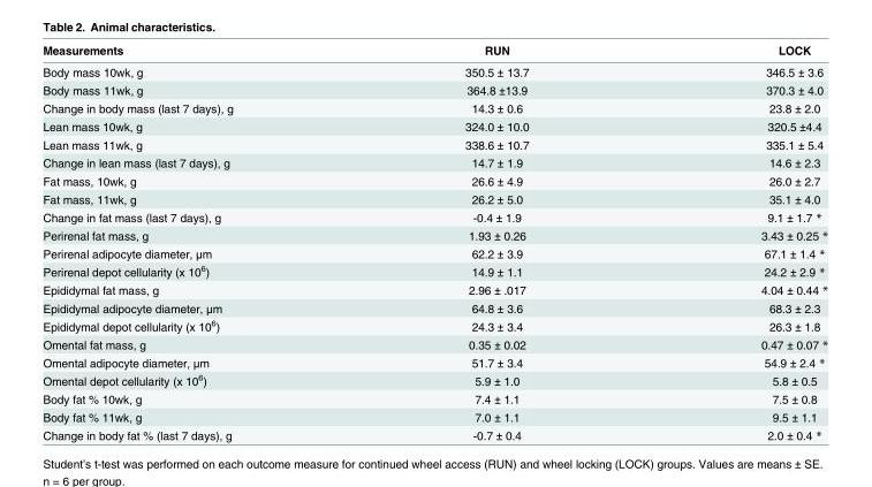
<table><thead><tr><td>Measurements</td><td>RUN</td><td>LOCK</td></tr></thead><tbody><tr><td>Body mass 10wk, g</td><td>350.5 ± 13.7</td><td>346.5 ± 3.6</td></tr><tr><td>Body mass 11wk, g</td><td>364.8 ±13.9</td><td>370.3 ± 4.0</td></tr><tr><td>Change in body mass (last 7 days), g</td><td>14.3 ± 0.6</td><td>23.8 ± 2.0</td></tr><tr><td>Lean mass 10wk, g</td><td>324.0 ± 10.0</td><td>320.5 ±4.4</td></tr><tr><td>Lean mass 11wk, g</td><td>338.6 ± 10.7</td><td>335.1 ± 5.4</td></tr><tr><td>Change in lean mass (last 7 days), g</td><td>14.7 ± 1.9</td><td>14.6 ± 2.3</td></tr><tr><td>Fat mass, 10wk, g</td><td>26.6 ± 4.9</td><td>26.0 ± 2.7</td></tr><tr><td>Fat mass, 11wk, g</td><td>26.2 ± 5.0</td><td>35.1 ± 4.0</td></tr><tr><td>Change in fat mass (last 7 days), g</td><td>-0.4 ± 1.9</td><td>9.1 ± 1.7 *</td></tr><tr><td>Perirenal fat mass, g</td><td>1.93 ± 0.26</td><td>3.43 ± 0.25 *</td></tr><tr><td>Perirenal adipocyte diameter, μm</td><td>62.2 ± 3.9</td><td>67.1 ± 1.4 *</td></tr><tr><td>Perirenal depot cellularity (x 10<sup>6</sup>)</td><td>14.9 ± 1.1</td><td>24.2 ± 2.9 *</td></tr><tr><td>Epididymal fat mass, g</td><td>2.96 ± .017</td><td>4.04 ± 0.44 *</td></tr><tr><td>Epididymal adipocyte diameter, μm</td><td>64.8 ± 3.6</td><td>68.3 ± 2.3</td></tr><tr><td>Epididymal depot cellularity (x 10<sup>6</sup>)</td><td>24.3 ± 3.4</td><td>26.3 ± 1.8</td></tr><tr><td>Omental fat mass, g</td><td>0.35 ± 0.02</td><td>0.47 ± 0.07 *</td></tr><tr><td>Omental adipocyte diameter, μm</td><td>51.7 ± 3.4</td><td>54.9 ± 2.4 *</td></tr><tr><td>Omental depot cellularity (x 10<sup>6</sup>)</td><td>5.9 ± 1.0</td><td>5.8 ± 0.5</td></tr><tr><td>Body fat % 10wk, g</td><td>7.4 ± 1.1</td><td>7.5 ± 0.8</td></tr><tr><td>Body fat % 11wk, g</td><td>7.0 ± 1.1</td><td>9.5 ± 1.1</td></tr><tr><td>Change in body fat % (last 7 days), g</td><td>-0.7 ± 0.4</td><td>2.0 ± 0.4 *</td></tr></tbody></table>